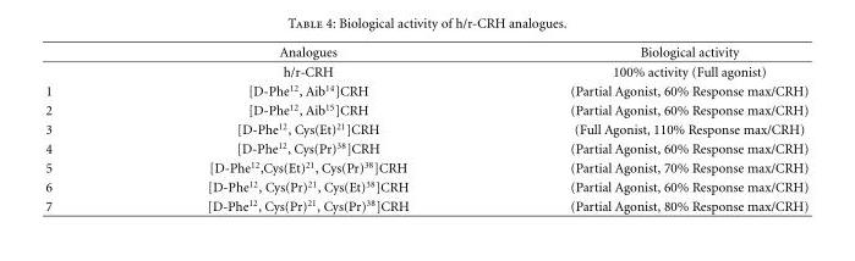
<table><thead><tr><td></td><td>Analogues</td><td>Biological activity</td></tr></thead><tbody><tr><td></td><td>h/r-CRH</td><td>100% activity (Full agonist)</td></tr><tr><td>1</td><td>[D-Phe<sup>12</sup>, Aib<sup>14</sup>]CRH</td><td>(Partial Agonist, 60% Response max/CRH)</td></tr><tr><td>2</td><td>[D-Phe<sup>12</sup>, Aib<sup>15</sup>]CRH</td><td>(Partial Agonist, 60% Response max/CRH)</td></tr><tr><td>3</td><td>[D-Phe<sup>12</sup>, Cys(Et)<sup>21</sup>]CRH</td><td>(Full Agonist, 110% Response max/CRH)</td></tr><tr><td>4</td><td>[D-Phe<sup>12</sup>, Cys(Pr)<sup>38</sup>]CRH</td><td>(Partial Agonist, 60% Response max/CRH)</td></tr><tr><td>5</td><td>[D-Phe<sup>12</sup>,Cys(Et)<sup>21</sup>, Cys(Pr)<sup>38</sup>]CRH</td><td>(Partial Agonist, 70% Response max/CRH)</td></tr><tr><td>6</td><td>[D-Phe<sup>12</sup>, Cys(Pr)<sup>21</sup>, Cys(Et)<sup>38</sup>]CRH</td><td>(Partial Agonist, 60% Response max/CRH)</td></tr><tr><td>7</td><td>[D-Phe<sup>12</sup>, Cys(Pr)<sup>21</sup>, Cys(Pr)<sup>38</sup>]CRH</td><td>(Partial Agonist, 80% Response max/CRH)</td></tr></tbody></table>